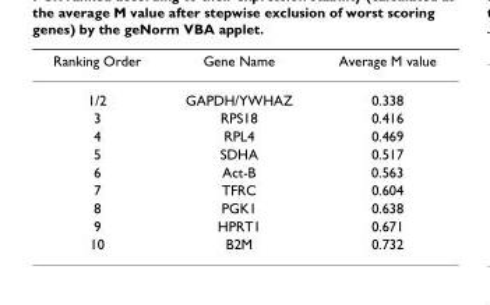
<table><thead><tr><td>Ranking Order</td><td>Gene Name</td><td>Average M value</td></tr></thead><tbody><tr><td>1/2</td><td>GAPDH/YWHAZ</td><td>0.338</td></tr><tr><td>3</td><td>RPS18</td><td>0.416</td></tr><tr><td>4</td><td>RPL4</td><td>0.469</td></tr><tr><td>5</td><td>SDHA</td><td>0.517</td></tr><tr><td>6</td><td>Act-B</td><td>0.563</td></tr><tr><td>7</td><td>TFRC</td><td>0.604</td></tr><tr><td>8</td><td>PGK1</td><td>0.638</td></tr><tr><td>9</td><td>HPRT1</td><td>0.671</td></tr><tr><td>10</td><td>B2M</td><td>0.732</td></tr></tbody></table>